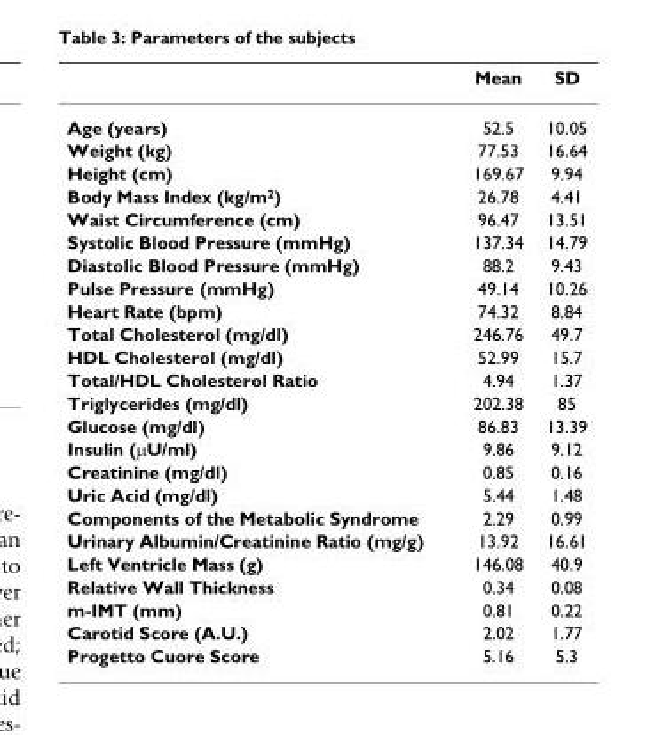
<table><thead><tr><td></td><td>Mean</td><td>SD</td></tr></thead><tbody><tr><td>Age (years)</td><td>52.5</td><td>10.05</td></tr><tr><td>Weight (kg)</td><td>77.53</td><td>16.64</td></tr><tr><td>Height (cm)</td><td>169.67</td><td>9.94</td></tr><tr><td>Body Mass Index (kg/m<sup>2</sup>)</td><td>26.78</td><td>4.41</td></tr><tr><td>Waist Circumference (cm)</td><td>96.47</td><td>13.51</td></tr><tr><td>Systolic Blood Pressure (mmHg)</td><td>137.34</td><td>14.79</td></tr><tr><td>Diastolic Blood Pressure (mmHg)</td><td>88.2</td><td>9.43</td></tr><tr><td>Pulse Pressure (mmHg)</td><td>49.14</td><td>10.26</td></tr><tr><td>Heart Rate (bpm)</td><td>74.32</td><td>8.84</td></tr><tr><td>Total Cholesterol (mg/dl)</td><td>246.76</td><td>49.7</td></tr><tr><td>HDL Cholesterol (mg/dl)</td><td>52.99</td><td>15.7</td></tr><tr><td>Total/HDL Cholesterol Ratio</td><td>4.94</td><td>1.37</td></tr><tr><td>Triglycerides (mg/dl)</td><td>202.38</td><td>85</td></tr><tr><td>Glucose (mg/dl)</td><td>86.83</td><td>13.39</td></tr><tr><td>Insulin (μU/ml)</td><td>9.86</td><td>9.12</td></tr><tr><td>Creatinine (mg/dl)</td><td>0.85</td><td>0.16</td></tr><tr><td>Uric Acid (mg/dl)</td><td>5.44</td><td>1.48</td></tr><tr><td>Components of the Metabolic Syndrome</td><td>2.29</td><td>0.99</td></tr><tr><td>Urinary Albumin/Creatinine Ratio (mg/g)</td><td>13.92</td><td>16.61</td></tr><tr><td>Left Ventricle Mass (g)</td><td>146.08</td><td>40.9</td></tr><tr><td>Relative Wall Thickness</td><td>0.34</td><td>0.08</td></tr><tr><td>m-IMT (mm)</td><td>0.81</td><td>0.22</td></tr><tr><td>Carotid Score (A.U.)</td><td>2.02</td><td>1.77</td></tr><tr><td>Progetto Cuore Score</td><td>5.16</td><td>5.3</td></tr></tbody></table>